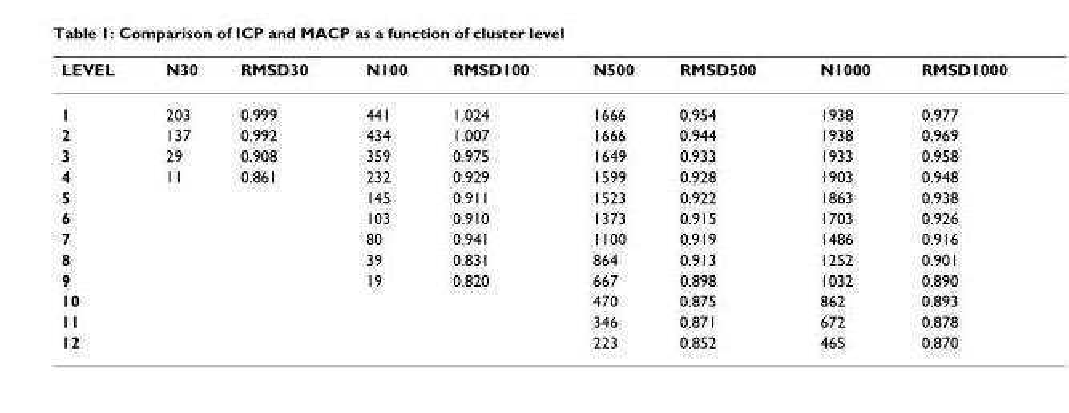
<table><thead><tr><td>LEVEL</td><td>N30</td><td>RMSD30</td><td>N100</td><td>RMSD100</td><td>N500</td><td>RMSD500</td><td>N1000</td><td>RMSD1000</td></tr></thead><tbody><tr><td>1</td><td>203</td><td>0.999</td><td>441</td><td>1.024</td><td>1666</td><td>0.954</td><td>1938</td><td>0.977</td></tr><tr><td>2</td><td>137</td><td>0.992</td><td>434</td><td>1.007</td><td>1666</td><td>0.944</td><td>1938</td><td>0.969</td></tr><tr><td>3</td><td>29</td><td>0.908</td><td>359</td><td>0.975</td><td>1649</td><td>0.933</td><td>1933</td><td>0.958</td></tr><tr><td>4</td><td>11</td><td>0.861</td><td>232</td><td>0.929</td><td>1599</td><td>0.928</td><td>1903</td><td>0.948</td></tr><tr><td>5</td><td></td><td></td><td>145</td><td>0.911</td><td>1523</td><td>0.922</td><td>1863</td><td>0.938</td></tr><tr><td>6</td><td></td><td></td><td>103</td><td>0.910</td><td>1373</td><td>0.915</td><td>1703</td><td>0.926</td></tr><tr><td>7</td><td></td><td></td><td>80</td><td>0.941</td><td>1100</td><td>0.919</td><td>1486</td><td>0.916</td></tr><tr><td>8</td><td></td><td></td><td>39</td><td>0.831</td><td>864</td><td>0.913</td><td>1252</td><td>0.901</td></tr><tr><td>9</td><td></td><td></td><td>19</td><td>0.820</td><td>667</td><td>0.898</td><td>1032</td><td>0.890</td></tr><tr><td>10</td><td></td><td></td><td></td><td></td><td>470</td><td>0.875</td><td>862</td><td>0.893</td></tr><tr><td>11</td><td></td><td></td><td></td><td></td><td>346</td><td>0.871</td><td>672</td><td>0.878</td></tr><tr><td>12</td><td></td><td></td><td></td><td></td><td>223</td><td>0.852</td><td>465</td><td>0.870</td></tr></tbody></table>